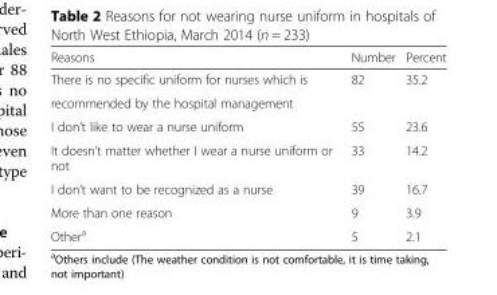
<table><thead><tr><td>Reasons</td><td>Number</td><td>Percent</td></tr></thead><tbody><tr><td>There is no specific uniform for nurses which is</td><td>82</td><td>35.2</td></tr><tr><td colspan="3">recommended by the hospital management</td></tr><tr><td>I don’t like to wear a nurse uniform</td><td>55</td><td>23.6</td></tr><tr><td>It doesn’t matter whether I wear a nurse uniform or not</td><td>33</td><td>14.2</td></tr><tr><td>I don’t want to be recognized as a nurse</td><td>39</td><td>16.7</td></tr><tr><td>More than one reason</td><td>9</td><td>3.9</td></tr><tr><td>Other<sup>a</sup></td><td>5</td><td>2.1</td></tr></tbody></table>